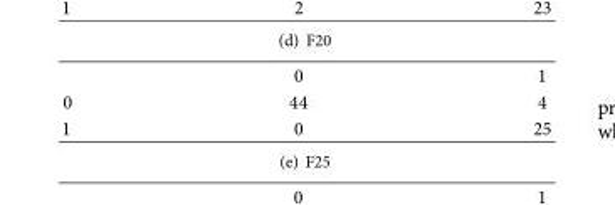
<table><thead><tr><td></td><td>0</td><td>1</td></tr></thead><tbody><tr><td>0</td><td>44</td><td>4</td></tr><tr><td>1</td><td>0</td><td>25</td></tr></tbody></table>